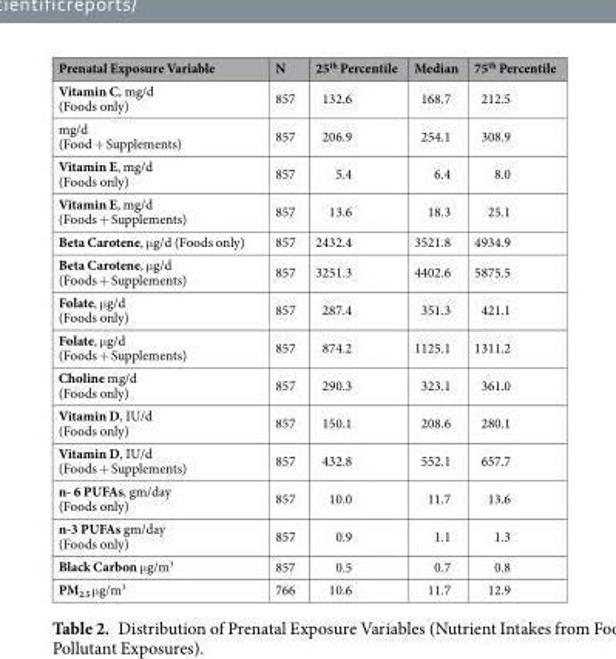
<table><thead><tr><td>Prenatal Exposure Variable</td><td>N</td><td>25<sup>th</sup> Percentile</td><td>Median</td><td>75<sup>th</sup> Percentile</td></tr></thead><tbody><tr><td>Vitamin C, mg/d (Foods only)</td><td>857</td><td>132.6</td><td>168.7</td><td>212.5</td></tr><tr><td>mg/d (Food + Supplements)</td><td>857</td><td>206.9</td><td>254.1</td><td>308.9</td></tr><tr><td>Vitamin E, mg/d (Foods only)</td><td>857</td><td>5.4</td><td>6.4</td><td>8.0</td></tr><tr><td>Vitamin E, mg/d (Foods + Supplements)</td><td>857</td><td>13.6</td><td>18.3</td><td>25.1</td></tr><tr><td>Beta Carotene, μg/d (Foods only)</td><td>857</td><td>2432.4</td><td>3521.8</td><td>4934.9</td></tr><tr><td>Beta Carotene, μg/d (Foods + Supplements)</td><td>857</td><td>3251.3</td><td>4402.6</td><td>5875.5</td></tr><tr><td>Folate, μg/d (Foods only)</td><td>857</td><td>287.4</td><td>351.3</td><td>421.1</td></tr><tr><td>Folate, μg/d (Foods + Supplements)</td><td>857</td><td>874.2</td><td>1125.1</td><td>1311.2</td></tr><tr><td>Choline mg/d (Foods only)</td><td>857</td><td>290.3</td><td>323.1</td><td>361.0</td></tr><tr><td>Vitamin D, IU/d (Foods only)</td><td>857</td><td>150.1</td><td>208.6</td><td>280.1</td></tr><tr><td>Vitamin D, IU/d (Foods + Supplements)</td><td>857</td><td>432.8</td><td>552.1</td><td>657.7</td></tr><tr><td>n- 6 PUFAs, gm/day (Foods only)</td><td>857</td><td>10.0</td><td>11.7</td><td>13.6</td></tr><tr><td>n-3 PUFAs gm/day (Foods only)</td><td>857</td><td>0.9</td><td>1.1</td><td>1.3</td></tr><tr><td>Black Carbon μg/m<sup>3</sup></td><td>857</td><td>0.5</td><td>0.7</td><td>0.8</td></tr><tr><td>PM<sub>2.5</sub> μg/m<sup>3</sup></td><td>766</td><td>10.6</td><td>11.7</td><td>12.9</td></tr></tbody></table>